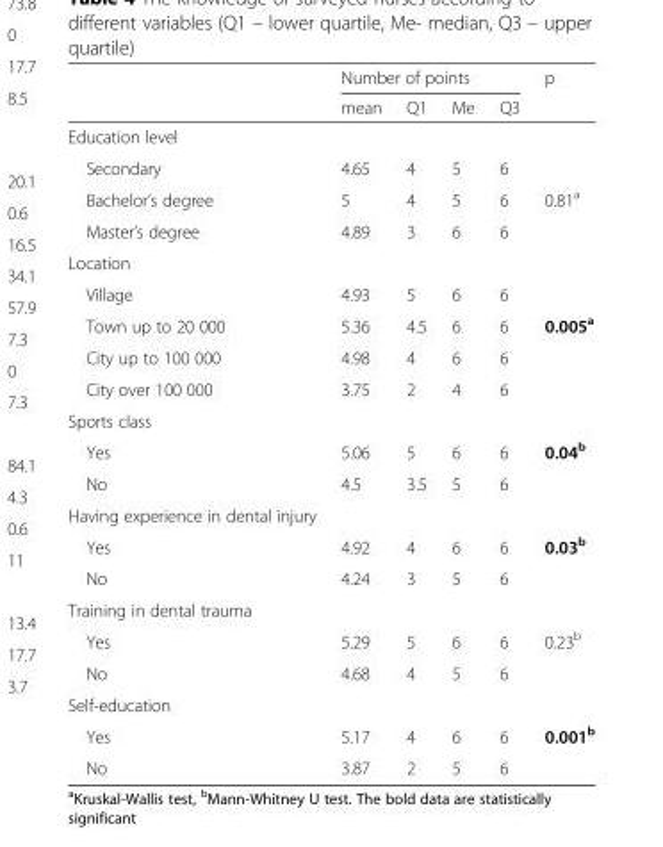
<table><thead><tr><td rowspan="2"></td><td colspan="4">Number of points</td><td rowspan="2">p</td></tr><tr><td>mean</td><td>Q1</td><td>Me</td><td>Q3</td></tr></thead><tbody><tr><td colspan="6">Education level</td></tr><tr><td>Secondary</td><td>4.65</td><td>4</td><td>5</td><td>6</td><td></td></tr><tr><td>Bachelor’s degree</td><td>5</td><td>4</td><td>5</td><td>6</td><td>0.81<sup>a</sup></td></tr><tr><td>Master’s degree</td><td>4.89</td><td>3</td><td>6</td><td>6</td><td></td></tr><tr><td colspan="6">Location</td></tr><tr><td>Village</td><td>4.93</td><td>5</td><td>6</td><td>6</td><td></td></tr><tr><td>Town up to 20 000</td><td>5.36</td><td>4.5</td><td>6</td><td>6</td><td>0.005<sup>a</sup></td></tr><tr><td>City up to 100 000</td><td>4.98</td><td>4</td><td>6</td><td>6</td><td></td></tr><tr><td>City over 100 000</td><td>3.75</td><td>2</td><td>4</td><td>6</td><td></td></tr><tr><td colspan="6">Sports class</td></tr><tr><td>Yes</td><td>5.06</td><td>5</td><td>6</td><td>6</td><td>0.04<sup>b</sup></td></tr><tr><td>No</td><td>4.5</td><td>3.5</td><td>5</td><td>6</td><td></td></tr><tr><td colspan="6">Having experience in dental injury</td></tr><tr><td>Yes</td><td>4.92</td><td>4</td><td>6</td><td>6</td><td>0.03<sup>b</sup></td></tr><tr><td>No</td><td>4.24</td><td>3</td><td>5</td><td>6</td><td></td></tr><tr><td colspan="6">Training in dental trauma</td></tr><tr><td>Yes</td><td>5.29</td><td>5</td><td>6</td><td>6</td><td>0.23<sup>b</sup></td></tr><tr><td>No</td><td>4.68</td><td>4</td><td>5</td><td>6</td><td></td></tr><tr><td colspan="6">Self-education</td></tr><tr><td>Yes</td><td>5.17</td><td>4</td><td>6</td><td>6</td><td>0.001<sup>b</sup></td></tr><tr><td>No</td><td>3.87</td><td>2</td><td>5</td><td>6</td><td></td></tr></tbody></table>